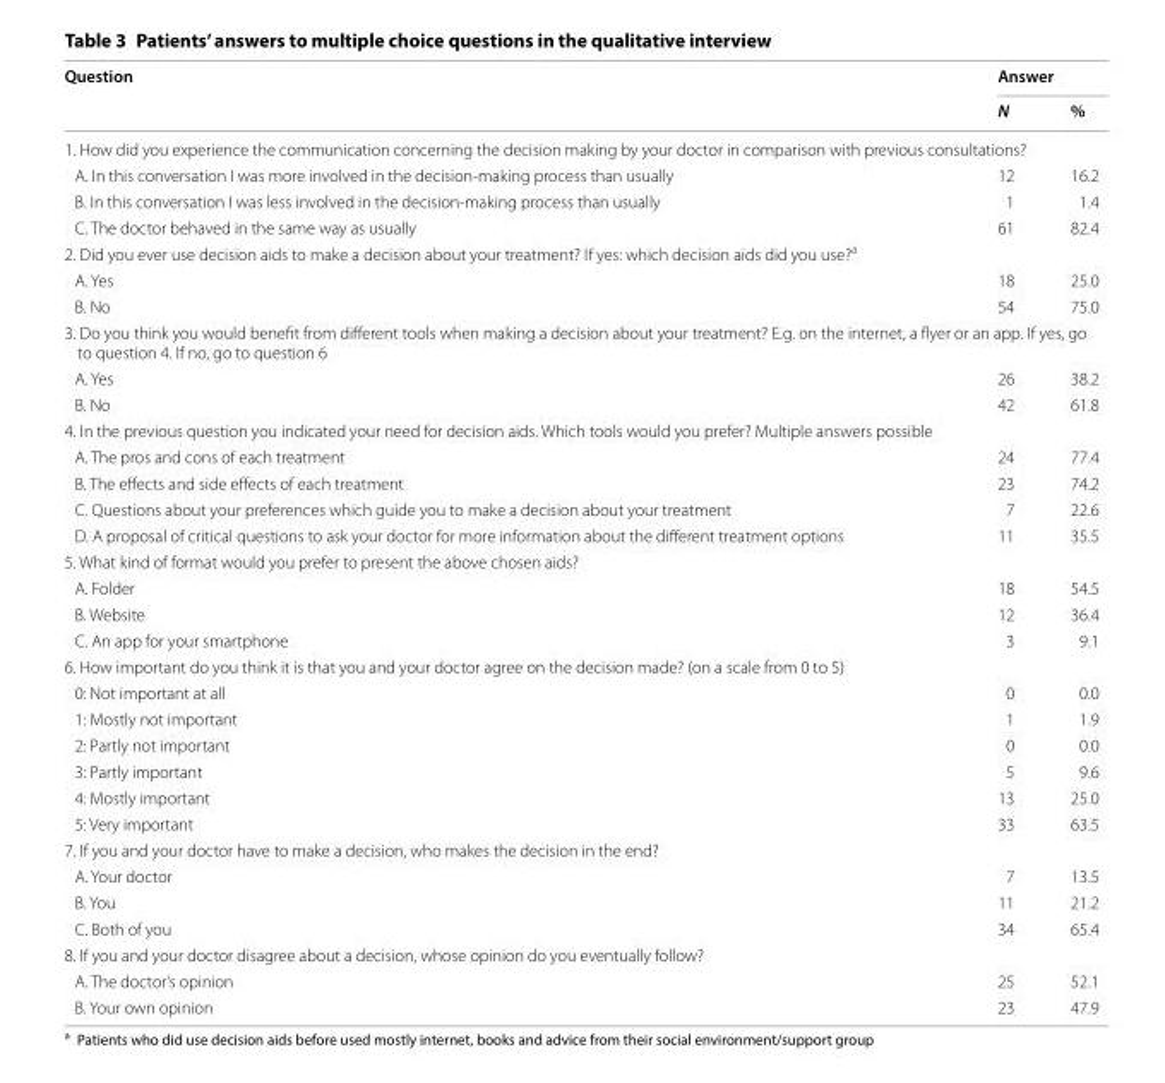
<table><thead><tr><td rowspan="2">Question</td><td colspan="2">Answer</td></tr><tr><td>N</td><td>%</td></tr></thead><tbody><tr><td colspan="3">1. How did you experience the communication concerning the decision making by your doctor in comparison with previous consultations?</td></tr><tr><td>A. In this conversation I was more involved in the decision-making process than usually</td><td>12</td><td>16.2</td></tr><tr><td>B. In this conversation I was less involved in the decision-making process than usually</td><td>1</td><td>1.4</td></tr><tr><td>C. The doctor behaved in the same way as usually</td><td>61</td><td>82.4</td></tr><tr><td colspan="3">2. Did you ever use decision aids to make a decision about your treatment? If yes: which decision aids did you use?<sup>a</sup></td></tr><tr><td>A. Yes</td><td>18</td><td>25.0</td></tr><tr><td>B. No</td><td>54</td><td>75.0</td></tr><tr><td colspan="3">3. Do you think you would benefit from different tools when making a decision about your treatment? E.g. on the internet, a flyer or an app. If yes, go to question 4. If no, go to question 6</td></tr><tr><td>A. Yes</td><td>26</td><td>38.2</td></tr><tr><td>B. No</td><td>42</td><td>61.8</td></tr><tr><td colspan="3">4. In the previous question you indicated your need for decision aids. Which tools would you prefer? Multiple answers possible</td></tr><tr><td>A. The pros and cons of each treatment</td><td>24</td><td>77.4</td></tr><tr><td>B. The effects and side effects of each treatment</td><td>23</td><td>74.2</td></tr><tr><td>C. Questions about your preferences which guide you to make a decision about your treatment</td><td>7</td><td>22.6</td></tr><tr><td>D. A proposal of critical questions to ask your doctor for more information about the different treatment options</td><td>11</td><td>35.5</td></tr><tr><td colspan="3">5. What kind of format would you prefer to present the above chosen aids?</td></tr><tr><td>A. Folder</td><td>18</td><td>54.5</td></tr><tr><td>B. Website</td><td>12</td><td>36.4</td></tr><tr><td>C. An app for your smartphone</td><td>3</td><td>9.1</td></tr><tr><td colspan="3">6. How important do you think it is that you and your doctor agree on the decision made? (on a scale from 0 to 5)</td></tr><tr><td>0: Not important at all</td><td>0</td><td>0.0</td></tr><tr><td>1: Mostly not important</td><td>1</td><td>1.9</td></tr><tr><td>2: Partly not important</td><td>0</td><td>0.0</td></tr><tr><td>3: Partly important</td><td>5</td><td>9.6</td></tr><tr><td>4: Mostly important</td><td>13</td><td>25.0</td></tr><tr><td>5: Very important</td><td>33</td><td>63.5</td></tr><tr><td colspan="3">7. If you and your doctor have to make a decision, who makes the decision in the end?</td></tr><tr><td>A. Your doctor</td><td>7</td><td>13.5</td></tr><tr><td>B. You</td><td>11</td><td>21.2</td></tr><tr><td>C. Both of you</td><td>34</td><td>65.4</td></tr><tr><td colspan="3">8. If you and your doctor disagree about a decision, whose opinion do you eventually follow?</td></tr><tr><td>A. The doctor’s opinion</td><td>25</td><td>52.1</td></tr><tr><td>B. Your own opinion</td><td>23</td><td>47.9</td></tr></tbody></table>